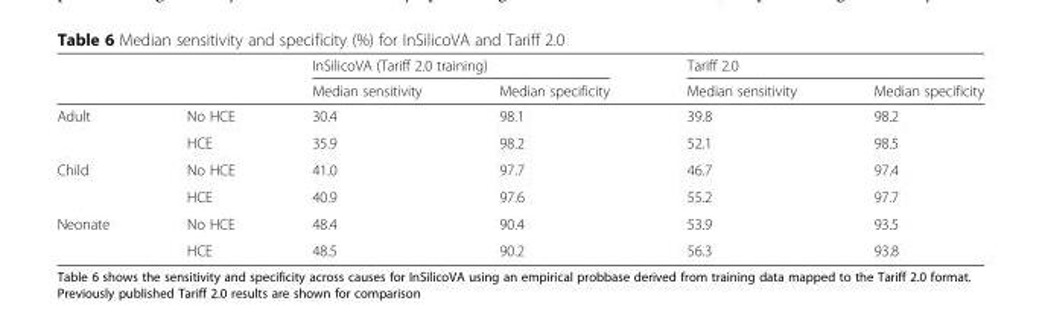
<table><thead><tr><td rowspan="2"></td><td rowspan="2"></td><td colspan="2">InSilicoVA (Tariff 2.0 training)</td><td colspan="2">Tariff 2.0</td></tr><tr><td>Median sensitivity</td><td>Median specificity</td><td>Median sensitivity</td><td>Median specificity</td></tr></thead><tbody><tr><td rowspan="2">Adult</td><td>No HCE</td><td>30.4</td><td>98.1</td><td>39.8</td><td>98.2</td></tr><tr><td>HCE</td><td>35.9</td><td>98.2</td><td>52.1</td><td>98.5</td></tr><tr><td rowspan="2">Child</td><td>No HCE</td><td>41.0</td><td>97.7</td><td>46.7</td><td>97.4</td></tr><tr><td>HCE</td><td>40.9</td><td>97.6</td><td>55.2</td><td>97.7</td></tr><tr><td rowspan="2">Neonate</td><td>No HCE</td><td>48.4</td><td>90.4</td><td>53.9</td><td>93.5</td></tr><tr><td>HCE</td><td>48.5</td><td>90.2</td><td>56.3</td><td>93.8</td></tr></tbody></table>